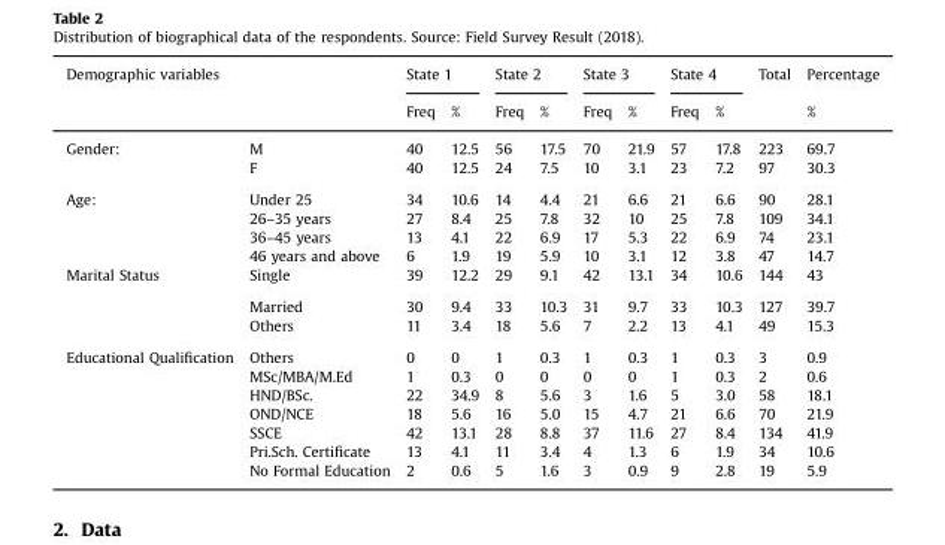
<table><thead><tr><td colspan="2">Demographic variables</td><td colspan="2">State 1</td><td colspan="2">State 2</td><td colspan="2">State 3</td><td colspan="2">State 4</td><td rowspan="2">Total</td><td rowspan="2">Percentage %</td></tr><tr><td></td><td></td><td>Freq</td><td>%</td><td>Freq</td><td>%</td><td>Freq</td><td>%</td><td>Freq</td><td>%</td></tr></thead><tbody><tr><td rowspan="2">Gender:</td><td>M</td><td>40</td><td>12.5</td><td>56</td><td>17.5</td><td>70</td><td>21.9</td><td>57</td><td>17.8</td><td>223</td><td>69.7</td></tr><tr><td>F</td><td>40</td><td>12.5</td><td>24</td><td>7.5</td><td>10</td><td>3.1</td><td>23</td><td>7.2</td><td>97</td><td>30.3</td></tr><tr><td rowspan="4">Age:</td><td>Under 25</td><td>34</td><td>10.6</td><td>14</td><td>4.4</td><td>21</td><td>6.6</td><td>21</td><td>6.6</td><td>90</td><td>28.1</td></tr><tr><td>26–35 years</td><td>27</td><td>8.4</td><td>25</td><td>7.8</td><td>32</td><td>10</td><td>25</td><td>7.8</td><td>109</td><td>34.1</td></tr><tr><td>36–45 years</td><td>13</td><td>4.1</td><td>22</td><td>6.9</td><td>17</td><td>5.3</td><td>22</td><td>6.9</td><td>74</td><td>23.1</td></tr><tr><td>46 years and above</td><td>6</td><td>1.9</td><td>19</td><td>5.9</td><td>10</td><td>3.1</td><td>12</td><td>3.8</td><td>47</td><td>14.7</td></tr><tr><td rowspan="3">Marital Status</td><td>Single</td><td>39</td><td>12.2</td><td>29</td><td>9.1</td><td>42</td><td>13.1</td><td>34</td><td>10.6</td><td>144</td><td>43</td></tr><tr><td>Married</td><td>30</td><td>9.4</td><td>33</td><td>10.3</td><td>31</td><td>9.7</td><td>33</td><td>10.3</td><td>127</td><td>39.7</td></tr><tr><td>Others</td><td>11</td><td>3.4</td><td>18</td><td>5.6</td><td>7</td><td>2.2</td><td>13</td><td>4.1</td><td>49</td><td>15.3</td></tr><tr><td rowspan="7">Educational Qualification</td><td>Others</td><td>0</td><td>0</td><td>1</td><td>0.3</td><td>1</td><td>0.3</td><td>1</td><td>0.3</td><td>3</td><td>0.9</td></tr><tr><td>MSc/MBA/M.Ed</td><td>1</td><td>0.3</td><td>0</td><td>0</td><td>0</td><td>0</td><td>1</td><td>0.3</td><td>2</td><td>0.6</td></tr><tr><td>HND/BSc.</td><td>22</td><td>34.9</td><td>8</td><td>5.6</td><td>3</td><td>1.6</td><td>5</td><td>3.0</td><td>58</td><td>18.1</td></tr><tr><td>OND/NCE</td><td>18</td><td>5.6</td><td>16</td><td>5.0</td><td>15</td><td>4.7</td><td>21</td><td>6.6</td><td>70</td><td>21.9</td></tr><tr><td>SSCE</td><td>42</td><td>13.1</td><td>28</td><td>8.8</td><td>37</td><td>11.6</td><td>27</td><td>8.4</td><td>134</td><td>41.9</td></tr><tr><td>Pri.Sch. Certificate</td><td>13</td><td>4.1</td><td>11</td><td>3.4</td><td>4</td><td>1.3</td><td>6</td><td>1.9</td><td>34</td><td>10.6</td></tr><tr><td>No Formal Education</td><td>2</td><td>0.6</td><td>5</td><td>1.6</td><td>3</td><td>0.9</td><td>9</td><td>2.8</td><td>19</td><td>5.9</td></tr></tbody></table>